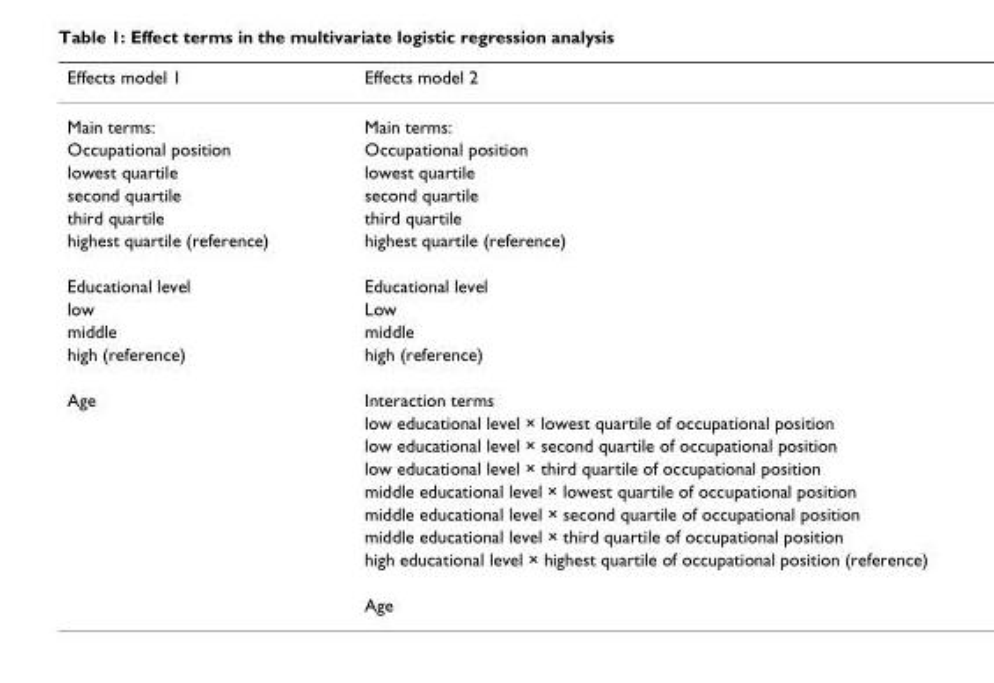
<table><thead><tr><td>Effects model 1</td><td>Effects model 2</td></tr></thead><tbody><tr><td>Main terms:</td><td>Main terms:</td></tr><tr><td>Occupational position</td><td>Occupational position</td></tr><tr><td>lowest quartile</td><td>lowest quartile</td></tr><tr><td>second quartile</td><td>second quartile</td></tr><tr><td>third quartile</td><td>third quartile</td></tr><tr><td>highest quartile (reference)</td><td>highest quartile (reference)</td></tr><tr><td>Educational level</td><td>Educational level</td></tr><tr><td>low</td><td>Low</td></tr><tr><td>middle</td><td>middle</td></tr><tr><td>high (reference)</td><td>high (reference)</td></tr><tr><td rowspan="9">Age</td><td>Interaction terms</td></tr><tr><td>low educational level × lowest quartile of occupational position</td></tr><tr><td>low educational level × second quartile of occupational position</td></tr><tr><td>low educational level × third quartile of occupational position</td></tr><tr><td>middle educational level × lowest quartile of occupational position</td></tr><tr><td>middle educational level × second quartile of occupational position</td></tr><tr><td>middle educational level × third quartile of occupational position</td></tr><tr><td>high educational level × highest quartile of occupational position (reference)</td></tr><tr><td>Age</td></tr></tbody></table>